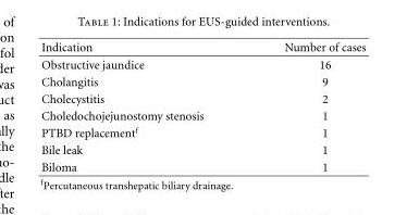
<table><thead><tr><td>Indication</td><td>Number of cases</td></tr></thead><tbody><tr><td>Obstructive jaundice</td><td>16</td></tr><tr><td>Cholangitis</td><td>9</td></tr><tr><td>Cholecystitis</td><td>2</td></tr><tr><td>Choledochojejunostomy stenosis</td><td>1</td></tr><tr><td>PTBD replacement<sup>f</sup></td><td>1</td></tr><tr><td>Bile leak</td><td>1</td></tr><tr><td>Biloma</td><td>1</td></tr></tbody></table>